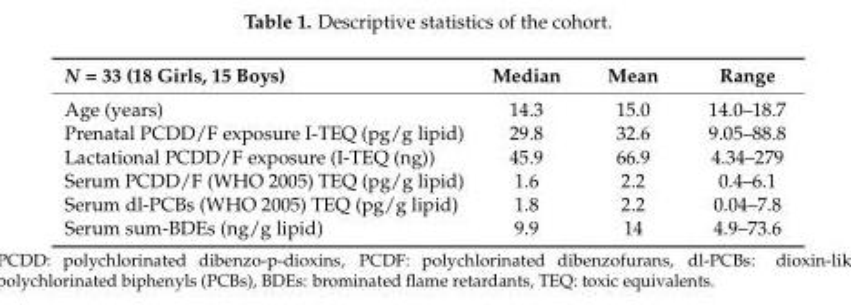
<table><thead><tr><td>N = 33 (18 Girls, 15 Boys)</td><td>Median</td><td>Mean</td><td>Range</td></tr></thead><tbody><tr><td>Age (years)</td><td>14.3</td><td>15.0</td><td>14.0–18.7</td></tr><tr><td>Prenatal PCDD/F exposure I-TEQ (pg/g lipid)</td><td>29.8</td><td>32.6</td><td>9.05–88.8</td></tr><tr><td>Lactational PCDD/F exposure (I-TEQ (ng))</td><td>45.9</td><td>66.9</td><td>4.34–279</td></tr><tr><td>Serum PCDD/F (WHO 2005) TEQ (pg/g lipid)</td><td>1.6</td><td>2.2</td><td>0.4–6.1</td></tr><tr><td>Serum dl-PCBs (WHO 2005) TEQ (pg/g lipid)</td><td>1.8</td><td>2.2</td><td>0.04–7.8</td></tr><tr><td>Serum sum-BDEs (ng/g lipid)</td><td>9.9</td><td>14</td><td>4.9–73.6</td></tr></tbody></table>